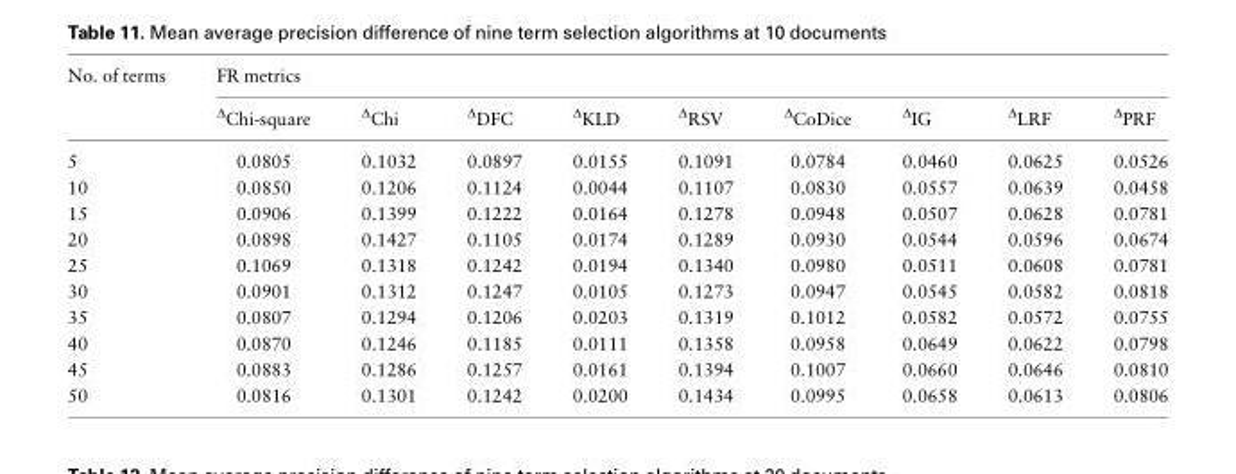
<table><thead><tr><td rowspan="2">No. of terms</td><td colspan="9">FR metrics</td></tr><tr><td><sup>Δ</sup>Chi-square</td><td><sup>Δ</sup>Chi</td><td><sup>Δ</sup>DFC</td><td><sup>Δ</sup>KLD</td><td><sup>Δ</sup>RSV</td><td><sup>Δ</sup>CoDice</td><td><sup>Δ</sup>IG</td><td><sup>Δ</sup>LRF</td><td><sup>Δ</sup>PRF</td></tr></thead><tbody><tr><td>5</td><td>0.0805</td><td>0.1032</td><td>0.0897</td><td>0.0155</td><td>0.1091</td><td>0.0784</td><td>0.0460</td><td>0.0625</td><td>0.0526</td></tr><tr><td>10</td><td>0.0850</td><td>0.1206</td><td>0.1124</td><td>0.0044</td><td>0.1107</td><td>0.0830</td><td>0.0557</td><td>0.0639</td><td>0.0458</td></tr><tr><td>15</td><td>0.0906</td><td>0.1399</td><td>0.1222</td><td>0.0164</td><td>0.1278</td><td>0.0948</td><td>0.0507</td><td>0.0628</td><td>0.0781</td></tr><tr><td>20</td><td>0.0898</td><td>0.1427</td><td>0.1105</td><td>0.0174</td><td>0.1289</td><td>0.0930</td><td>0.0544</td><td>0.0596</td><td>0.0674</td></tr><tr><td>25</td><td>0.1069</td><td>0.1318</td><td>0.1242</td><td>0.0194</td><td>0.1340</td><td>0.0980</td><td>0.0511</td><td>0.0608</td><td>0.0781</td></tr><tr><td>30</td><td>0.0901</td><td>0.1312</td><td>0.1247</td><td>0.0105</td><td>0.1273</td><td>0.0947</td><td>0.0545</td><td>0.0582</td><td>0.0818</td></tr><tr><td>35</td><td>0.0807</td><td>0.1294</td><td>0.1206</td><td>0.0203</td><td>0.1319</td><td>0.1012</td><td>0.0582</td><td>0.0572</td><td>0.0755</td></tr><tr><td>40</td><td>0.0870</td><td>0.1246</td><td>0.1185</td><td>0.0111</td><td>0.1358</td><td>0.0958</td><td>0.0649</td><td>0.0622</td><td>0.0798</td></tr><tr><td>45</td><td>0.0883</td><td>0.1286</td><td>0.1257</td><td>0.0161</td><td>0.1394</td><td>0.1007</td><td>0.0660</td><td>0.0646</td><td>0.0810</td></tr><tr><td>50</td><td>0.0816</td><td>0.1301</td><td>0.1242</td><td>0.0200</td><td>0.1434</td><td>0.0995</td><td>0.0658</td><td>0.0613</td><td>0.0806</td></tr></tbody></table>